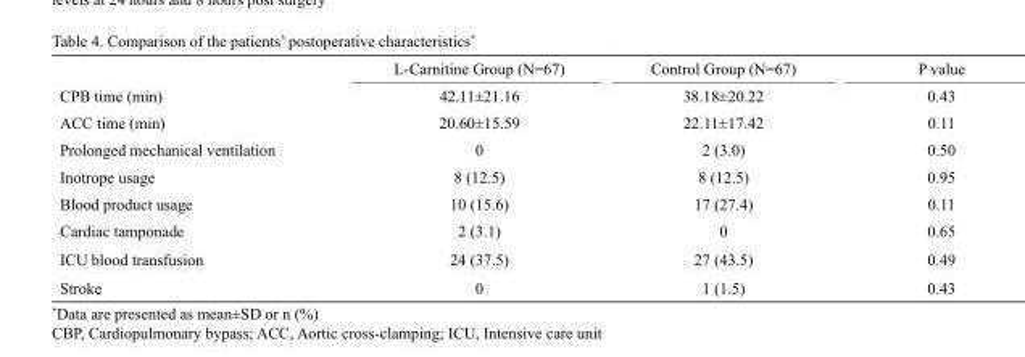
<table><thead><tr><td></td><td>L-Carnitine Group (N=67)</td><td>Control Group (N=67)</td><td>P value</td></tr></thead><tbody><tr><td>CPB time (min)</td><td>42.11±21.16</td><td>38.18±20.22</td><td>0.43</td></tr><tr><td>ACC time (min)</td><td>20.60±15.59</td><td>22.11±17.42</td><td>0.11</td></tr><tr><td>Prolonged mechanical ventilation</td><td>0</td><td>2 (3.0)</td><td>0.50</td></tr><tr><td>Inotrope usage</td><td>8 (12.5)</td><td>8 (12.5)</td><td>0.95</td></tr><tr><td>Blood product usage</td><td>10 (15.6)</td><td>17 (27.4)</td><td>0.11</td></tr><tr><td>Cardiac tamponade</td><td>2 (3.1)</td><td>0</td><td>0.65</td></tr><tr><td>ICU blood transfusion</td><td>24 (37.5)</td><td>27 (43.5)</td><td>0.49</td></tr><tr><td>Stroke</td><td>0</td><td>1 (1.5)</td><td>0.43</td></tr></tbody></table>